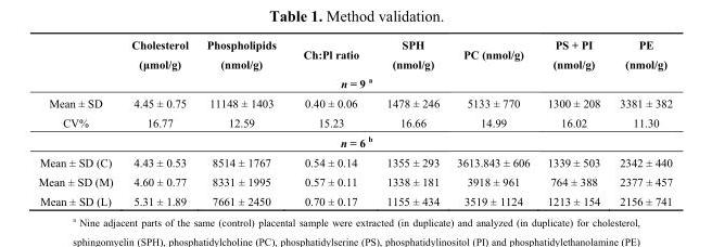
<table><thead><tr><td></td><td>Cholesterol (μmol/g)</td><td>Phospholipids (nmol/g)</td><td>Ch:Pl ratio</td><td>SPH (nmol/g)</td><td>PC (nmol/g)</td><td>PS + PI (nmol/g)</td><td>PE (nmol/g)</td></tr><tr><td colspan="8">n = 9 a</td></tr></thead><tbody><tr><td>Mean ± SD</td><td>4.45 ± 0.75</td><td>11148 ± 1403</td><td>0.40 ± 0.06</td><td>1478 ± 246</td><td>5133 ± 770</td><td>1300 ± 208</td><td>3381 ± 382</td></tr><tr><td>CV%</td><td>16.77</td><td>12.59</td><td>15.23</td><td>16.66</td><td>14.99</td><td>16.02</td><td>11.30</td></tr><tr><td colspan="8">n = 6 <sup>b</sup></td></tr><tr><td>Mean ± SD (C)</td><td>4.43 ± 0.53</td><td>8514 ± 1767</td><td>0.54 ± 0.14</td><td>1355 ± 293</td><td>3613.843 ± 606</td><td>1339 ± 503</td><td>2342 ± 440</td></tr><tr><td>Mean ± SD (M)</td><td>4.60 ± 0.77</td><td>8331 ± 1995</td><td>0.57 ± 0.11</td><td>1338 ± 181</td><td>3918 ± 961</td><td>764 ± 388</td><td>2377 ± 457</td></tr><tr><td>Mean ± SD (L)</td><td>5.31 ± 1.89</td><td>7661 ± 2450</td><td>0.70 ± 0.17</td><td>1155 ± 434</td><td>3519 ± 1124</td><td>1213 ± 154</td><td>2156 ± 741</td></tr></tbody></table>